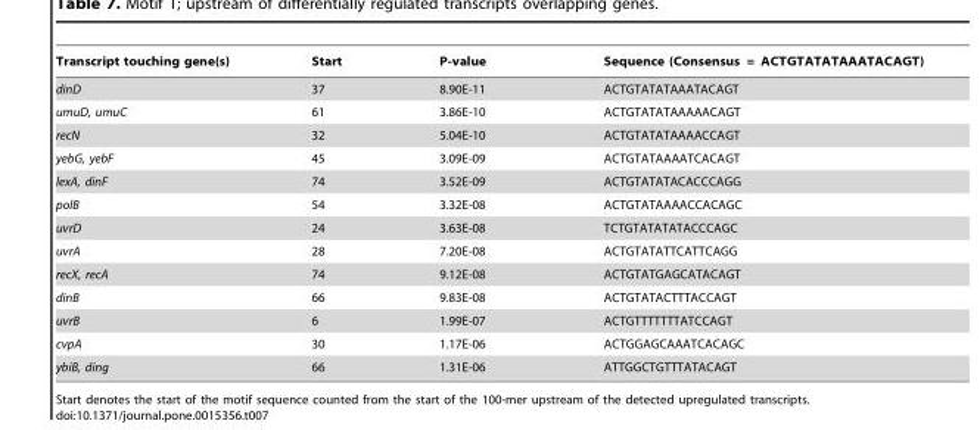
<table><thead><tr><td>Transcript touching gene(s)</td><td>Start</td><td>P-value</td><td>Sequence (Consensus = ACTGTATATAAATACAGT)</td></tr></thead><tbody><tr><td>dinD</td><td>37</td><td>8.90E-11</td><td>ACTGTATATAAATACAGT</td></tr><tr><td>umuD, umuC</td><td>61</td><td>3.86E-10</td><td>ACTGTATATAAAAACAGT</td></tr><tr><td>recN</td><td>32</td><td>5.04E-10</td><td>ACTGTATATAAAACCAGT</td></tr><tr><td>yebG, yebF</td><td>45</td><td>3.09E-09</td><td>ACTGTATAAAATCACAGT</td></tr><tr><td>lexA, dinF</td><td>74</td><td>3.52E-09</td><td>ACTGTATATACACCCAGG</td></tr><tr><td>polB</td><td>54</td><td>3.32E-08</td><td>ACTGTATAAAACCACAGC</td></tr><tr><td>uvrD</td><td>24</td><td>3.63E-08</td><td>TCTGTATATATACCCAGC</td></tr><tr><td>uvrA</td><td>28</td><td>7.20E-08</td><td>ACTGTATATTCATTCAGG</td></tr><tr><td>recX, recA</td><td>74</td><td>9.12E-08</td><td>ACTGTATGAGCATACAGT</td></tr><tr><td>dinB</td><td>66</td><td>9.83E-08</td><td>ACTGTATACTTTACCAGT</td></tr><tr><td>uvrB</td><td>6</td><td>1.99E-07</td><td>ACTGTTTTTTTATCCAGT</td></tr><tr><td>cvpA</td><td>30</td><td>1.17E-06</td><td>ACTGGAGCAAATCACAGC</td></tr><tr><td>ybiB, ding</td><td>66</td><td>1.31E-06</td><td>ATTGGCTGTTTATACAGT</td></tr></tbody></table>